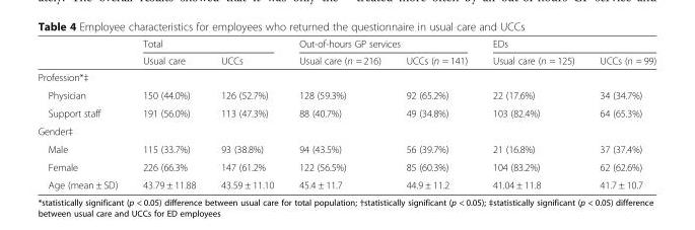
<table><thead><tr><td rowspan="2"></td><td colspan="2">Total</td><td colspan="2">Out-of-hours GP services</td><td colspan="2">EDs</td></tr><tr><td>Usual care</td><td>UCCs</td><td>Usual care (n = 216)</td><td>UCCs (n = 141)</td><td>Usual care (n = 125)</td><td>UCCs (n = 99)</td></tr></thead><tbody><tr><td colspan="7">Profession*‡</td></tr><tr><td>Physician</td><td>150 (44.0%)</td><td>126 (52.7%)</td><td>128 (59.3%)</td><td>92 (65.2%)</td><td>22 (17.6%)</td><td>34 (34.7%)</td></tr><tr><td>Support staff</td><td>191 (56.0%)</td><td>113 (47.3%)</td><td>88 (40.7%)</td><td>49 (34.8%)</td><td>103 (82.4%)</td><td>64 (65.3%)</td></tr><tr><td colspan="7">Gender‡</td></tr><tr><td>Male</td><td>115 (33.7%)</td><td>93 (38.8%)</td><td>94 (43.5%)</td><td>56 (39.7%)</td><td>21 (16.8%)</td><td>37 (37.4%)</td></tr><tr><td>Female</td><td>226 (66.3%</td><td>147 (61.2%</td><td>122 (56.5%)</td><td>85 (60.3%)</td><td>104 (83.2%)</td><td>62 (62.6%)</td></tr><tr><td>Age (mean ± SD)</td><td>43.79 ± 11.88</td><td>43.59 ± 11.10</td><td>45.4 ± 11.7</td><td>44.9 ± 11.2</td><td>41.04 ± 11.8</td><td>41.7 ± 10.7</td></tr></tbody></table>